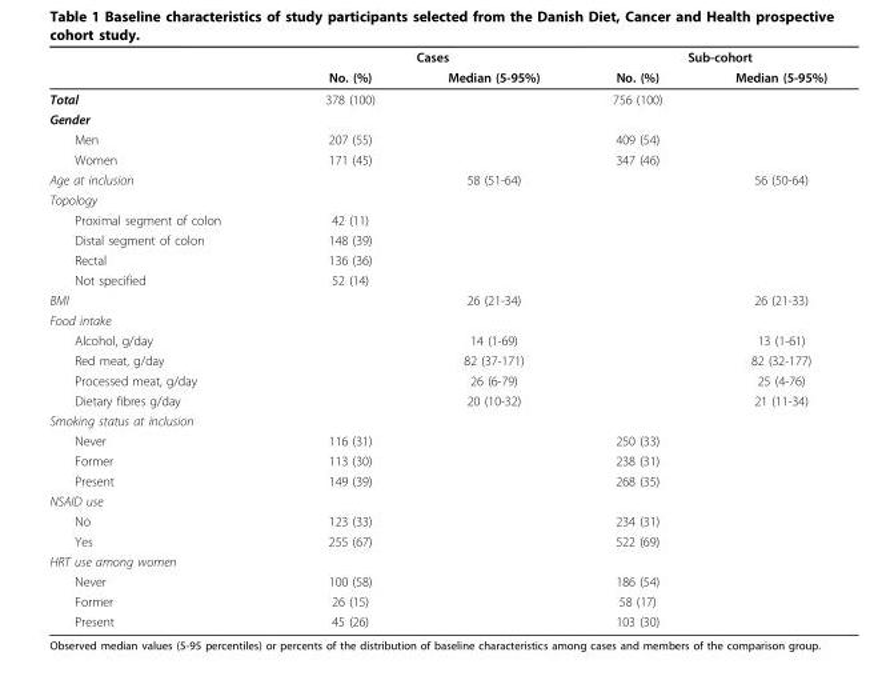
<table><thead><tr><td rowspan="2"></td><td colspan="2">Cases</td><td colspan="2">Sub-cohort</td></tr><tr><td>No. (%)</td><td>Median (5-95%)</td><td>No. (%)</td><td>Median (5-95%)</td></tr></thead><tbody><tr><td>Total</td><td>378 (100)</td><td></td><td>756 (100)</td><td></td></tr><tr><td colspan="5">Gender</td></tr><tr><td>Men</td><td>207 (55)</td><td></td><td>409 (54)</td><td></td></tr><tr><td>Women</td><td>171 (45)</td><td></td><td>347 (46)</td><td></td></tr><tr><td>Age at inclusion</td><td></td><td>58 (51-64)</td><td></td><td>56 (50-64)</td></tr><tr><td colspan="5">Topology</td></tr><tr><td>Proximal segment of colon</td><td>42 (11)</td><td></td><td></td><td></td></tr><tr><td>Distal segment of colon</td><td>148 (39)</td><td></td><td></td><td></td></tr><tr><td>Rectal</td><td>136 (36)</td><td></td><td></td><td></td></tr><tr><td>Not specified</td><td>52 (14)</td><td></td><td></td><td></td></tr><tr><td>BMI</td><td></td><td>26 (21-34)</td><td></td><td>26 (21-33)</td></tr><tr><td colspan="5">Food intake</td></tr><tr><td>Alcohol, g/day</td><td></td><td>14 (1-69)</td><td></td><td>13 (1-61)</td></tr><tr><td>Red meat, g/day</td><td></td><td>82 (37-171)</td><td></td><td>82 (32-177)</td></tr><tr><td>Processed meat, g/day</td><td></td><td>26 (6-79)</td><td></td><td>25 (4-76)</td></tr><tr><td>Dietary fibres g/day</td><td></td><td>20 (10-32)</td><td></td><td>21 (11-34)</td></tr><tr><td colspan="5">Smoking status at inclusion</td></tr><tr><td>Never</td><td>116 (31)</td><td></td><td>250 (33)</td><td></td></tr><tr><td>Former</td><td>113 (30)</td><td></td><td>238 (31)</td><td></td></tr><tr><td>Present</td><td>149 (39)</td><td></td><td>268 (35)</td><td></td></tr><tr><td colspan="5">NSAID use</td></tr><tr><td>No</td><td>123 (33)</td><td></td><td>234 (31)</td><td></td></tr><tr><td>Yes</td><td>255 (67)</td><td></td><td>522 (69)</td><td></td></tr><tr><td colspan="5">HRT use among women</td></tr><tr><td>Never</td><td>100 (58)</td><td></td><td>186 (54)</td><td></td></tr><tr><td>Former</td><td>26 (15)</td><td></td><td>58 (17)</td><td></td></tr><tr><td>Present</td><td>45 (26)</td><td></td><td>103 (30)</td><td></td></tr></tbody></table>